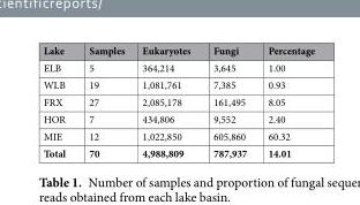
<table><thead><tr><td>Lake</td><td>Samples</td><td>Eukaryotes</td><td>Fungi</td><td>Percentage</td></tr></thead><tbody><tr><td>ELB</td><td>5</td><td>364,214</td><td>3,645</td><td>1.00</td></tr><tr><td>WLB</td><td>19</td><td>1,081,761</td><td>7,385</td><td>0.93</td></tr><tr><td>FRX</td><td>27</td><td>2,085,178</td><td>161,495</td><td>8.05</td></tr><tr><td>HOR</td><td>7</td><td>434,806</td><td>9,552</td><td>2.40</td></tr><tr><td>MIE</td><td>12</td><td>1,022,850</td><td>605,860</td><td>60.32</td></tr><tr><td>Total</td><td>70</td><td>4,988,809</td><td>787,937</td><td>14.01</td></tr></tbody></table>